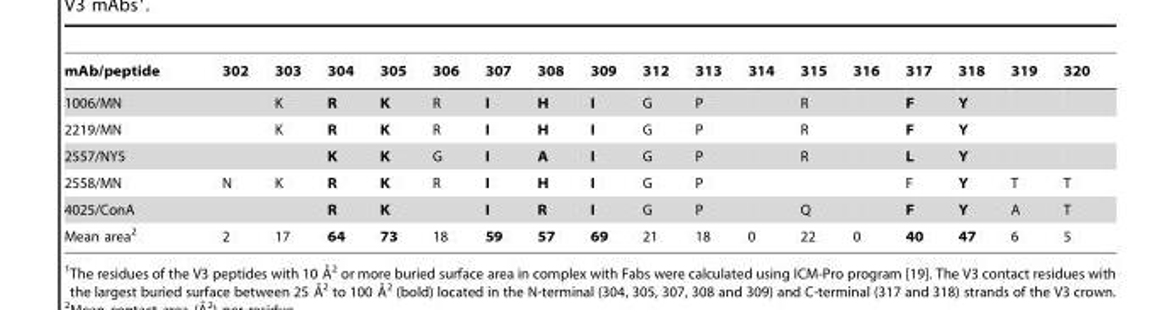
<table><thead><tr><td>mAb/peptide</td><td>302</td><td>303</td><td>304</td><td>305</td><td>306</td><td>307</td><td>308</td><td>309</td><td>312</td><td>313</td><td>314</td><td>315</td><td>316</td><td>317</td><td>318</td><td>319</td><td>320</td></tr></thead><tbody><tr><td>1006/MN</td><td></td><td>K</td><td>R</td><td>K</td><td>R</td><td>I</td><td>H</td><td>I</td><td>G</td><td>P</td><td></td><td>R</td><td></td><td>F</td><td>Y</td><td></td><td></td></tr><tr><td>2219/MN</td><td></td><td>K</td><td>R</td><td>K</td><td>R</td><td>I</td><td>H</td><td>I</td><td>G</td><td>P</td><td></td><td>R</td><td></td><td>F</td><td>Y</td><td></td><td></td></tr><tr><td>2557/NY5</td><td></td><td></td><td>K</td><td>K</td><td>G</td><td>I</td><td>A</td><td>I</td><td>G</td><td>P</td><td></td><td>R</td><td></td><td>L</td><td>Y</td><td></td><td></td></tr><tr><td>2558/MN</td><td>N</td><td>K</td><td>R</td><td>K</td><td>R</td><td>I</td><td>H</td><td>I</td><td>G</td><td>P</td><td></td><td></td><td></td><td>F</td><td>Y</td><td>T</td><td>T</td></tr><tr><td>4025/ConA</td><td></td><td></td><td>R</td><td>K</td><td></td><td>I</td><td>R</td><td>I</td><td>G</td><td>P</td><td></td><td>Q</td><td></td><td>F</td><td>Y</td><td>A</td><td>T</td></tr><tr><td>Mean area<sup>2</sup></td><td>2</td><td>17</td><td>64</td><td>73</td><td>18</td><td>59</td><td>57</td><td>69</td><td>21</td><td>18</td><td>0</td><td>22</td><td>0</td><td>40</td><td>47</td><td>6</td><td>5</td></tr></tbody></table>